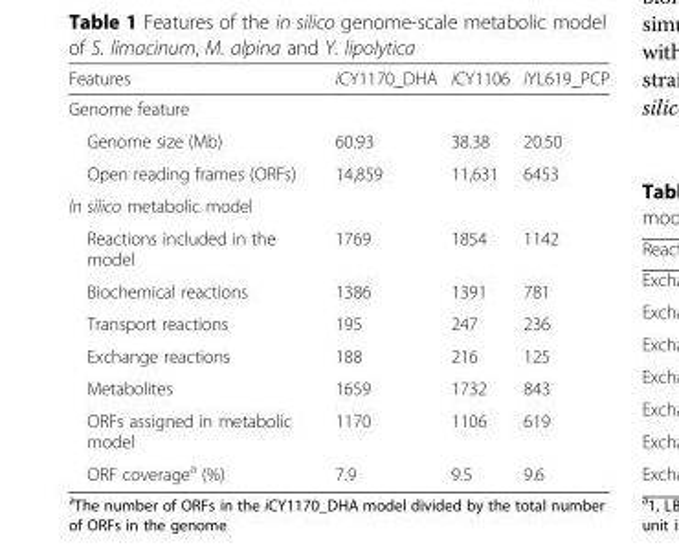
<table><thead><tr><td>Features</td><td>iCY1170_DHA</td><td>iCY1106</td><td>iYL619_PCP</td></tr></thead><tbody><tr><td colspan="4">Genome feature</td></tr><tr><td>Genome size (Mb)</td><td>60.93</td><td>38.38</td><td>20.50</td></tr><tr><td>Open reading frames (ORFs)</td><td>14,859</td><td>11,631</td><td>6453</td></tr><tr><td colspan="4">In silico metabolic model</td></tr><tr><td>Reactions included in the model</td><td>1769</td><td>1854</td><td>1142</td></tr><tr><td>Biochemical reactions</td><td>1386</td><td>1391</td><td>781</td></tr><tr><td>Transport reactions</td><td>195</td><td>247</td><td>236</td></tr><tr><td>Exchange reactions</td><td>188</td><td>216</td><td>125</td></tr><tr><td>Metabolites</td><td>1659</td><td>1732</td><td>843</td></tr><tr><td>ORFs assigned in metabolic model</td><td>1170</td><td>1106</td><td>619</td></tr><tr><td>ORF coverage<sup>a</sup> (%)</td><td>7.9</td><td>9.5</td><td>9.6</td></tr></tbody></table>